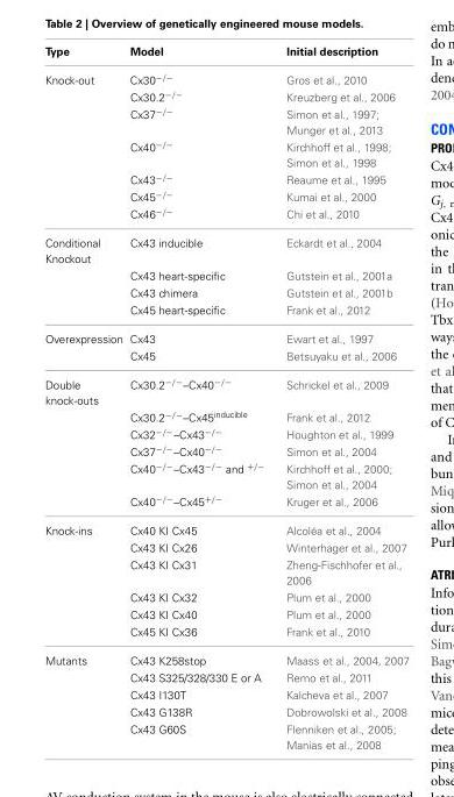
<table><thead><tr><td>Type</td><td>Model</td><td>Initial description</td></tr></thead><tbody><tr><td rowspan="7">Knock-out</td><td>Cx30<sup>−/−</sup></td><td>Gros et al., 2010</td></tr><tr><td>Cx30.2<sup>−/−</sup></td><td>Kreuzberg et al., 2006</td></tr><tr><td>Cx37<sup>−/−</sup></td><td>Simon et al., 1997; Munger et al., 2013</td></tr><tr><td>Cx40<sup>−/−</sup></td><td>Kirchhoff et al., 1998; Simon et al., 1998</td></tr><tr><td>Cx43<sup>−/−</sup></td><td>Reaume et al., 1995</td></tr><tr><td>Cx45<sup>−/−</sup></td><td>Kumai et al., 2000</td></tr><tr><td>Cx46<sup>−/−</sup></td><td>Chi et al., 2010</td></tr><tr><td rowspan="4">Conditional Knockout</td><td>Cx43 inducible</td><td>Eckardt et al., 2004</td></tr><tr><td>Cx43 heart-specific</td><td>Gutstein et al., 2001a</td></tr><tr><td>Cx43 chimera</td><td>Gutstein et al., 2001b</td></tr><tr><td>Cx45 heart-specific</td><td>Frank et al., 2012</td></tr><tr><td rowspan="2">Overexpression</td><td>Cx43</td><td>Ewart et al., 1997</td></tr><tr><td>Cx45</td><td>Betsuyaku et al., 2006</td></tr><tr><td rowspan="6">Double knock-outs</td><td>Cx30.2<sup>−/−</sup>–Cx40<sup>−/−</sup></td><td>Schrickel et al., 2009</td></tr><tr><td>Cx30.2<sup>−/−</sup>–Cx45<sup>inducible</sup></td><td>Frank et al., 2012</td></tr><tr><td>Cx32<sup>−/−</sup>–Cx43<sup>−/−</sup></td><td>Houghton et al., 1999</td></tr><tr><td>Cx37<sup>−/−</sup>–Cx40<sup>−/−</sup></td><td>Simon et al., 2004</td></tr><tr><td>Cx40<sup>−/−</sup>–Cx43<sup>−/−</sup> and <sup>+/−</sup></td><td>Kirchhoff et al., 2000; Simon et al., 2004</td></tr><tr><td>Cx40<sup>−/−</sup>–Cx45<sup>+/−</sup></td><td>Kruger et al., 2006</td></tr><tr><td rowspan="6">Knock-ins</td><td>Cx40 KI Cx45</td><td>Alcoléa et al., 2004</td></tr><tr><td>Cx43 KI Cx26</td><td>Winterhager et al., 2007</td></tr><tr><td>Cx43 KI Cx31</td><td>Zheng-Fischhofer et al., 2006</td></tr><tr><td>Cx43 KI Cx32</td><td>Plum et al., 2000</td></tr><tr><td>Cx43 KI Cx40</td><td>Plum et al., 2000</td></tr><tr><td>Cx45 KI Cx36</td><td>Frank et al., 2010</td></tr><tr><td rowspan="5">Mutants</td><td>Cx43 K258stop</td><td>Maass et al., 2004, 2007</td></tr><tr><td>Cx43 S325/328/330 E or A</td><td>Remo et al., 2011</td></tr><tr><td>Cx43 I130T</td><td>Kalcheva et al., 2007</td></tr><tr><td>Cx43 G138R</td><td>Dobrowolski et al., 2008</td></tr><tr><td>Cx43 G60S</td><td>Flenniken et al., 2005; Manias et al., 2008</td></tr></tbody></table>